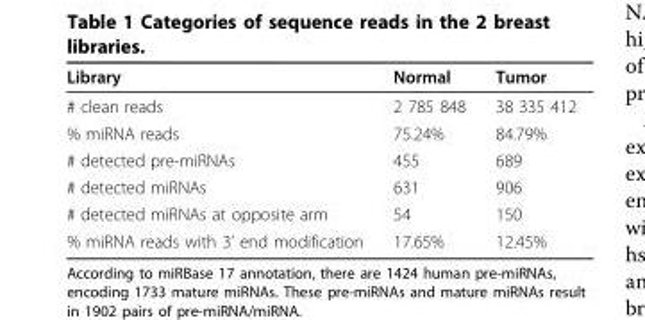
<table><thead><tr><td>Library</td><td>Normal</td><td>Tumor</td></tr></thead><tbody><tr><td># clean reads</td><td>2 785 848</td><td>38 335 412</td></tr><tr><td>% miRNA reads</td><td>75.24%</td><td>84.79%</td></tr><tr><td># detected pre-miRNAs</td><td>455</td><td>689</td></tr><tr><td># detected miRNAs</td><td>631</td><td>906</td></tr><tr><td># detected miRNAs at opposite arm</td><td>54</td><td>150</td></tr><tr><td>% miRNA reads with 3’ end modification</td><td>17.65%</td><td>12.45%</td></tr></tbody></table>